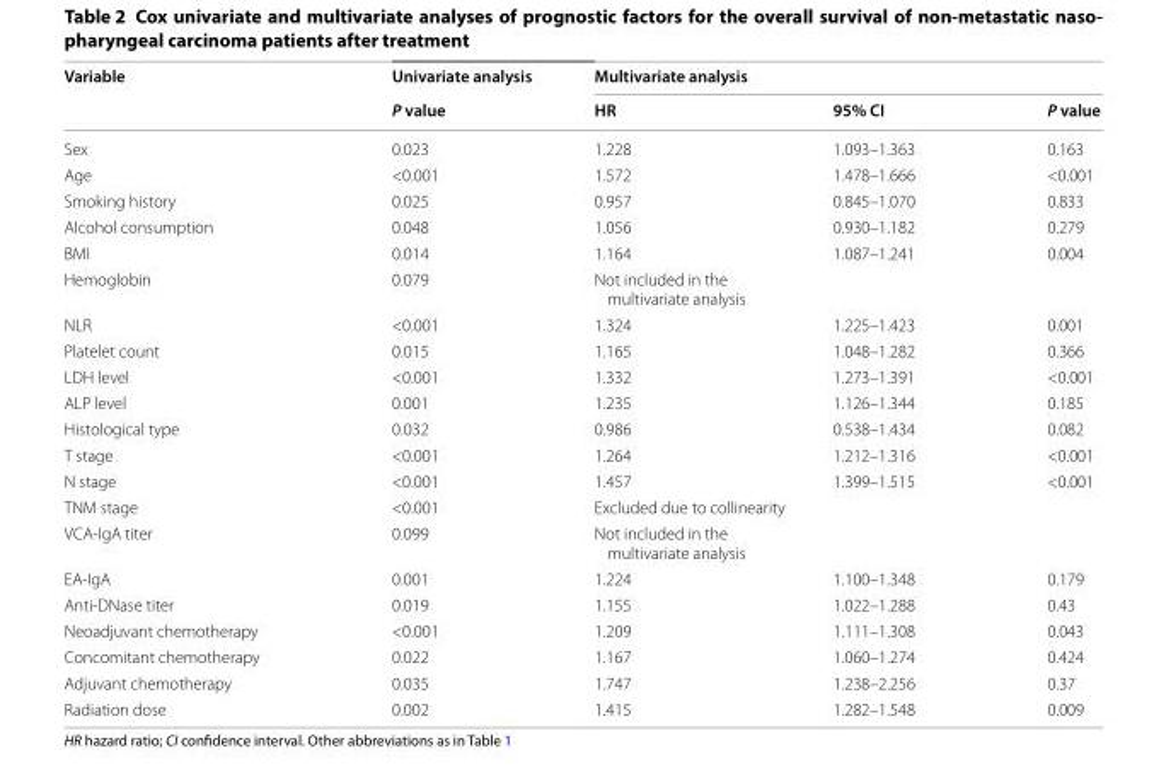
<table><thead><tr><td rowspan="2">Variable</td><td rowspan="2">Univariate analysis P value</td><td colspan="3">Multivariate analysis</td></tr><tr><td>HR</td><td>95% CI</td><td>P value</td></tr></thead><tbody><tr><td>Sex</td><td>0.023</td><td>1.228</td><td>1.093–1.363</td><td>0.163</td></tr><tr><td>Age</td><td>&lt;0.001</td><td>1.572</td><td>1.478–1.666</td><td>&lt;0.001</td></tr><tr><td>Smoking history</td><td>0.025</td><td>0.957</td><td>0.845–1.070</td><td>0.833</td></tr><tr><td>Alcohol consumption</td><td>0.048</td><td>1.056</td><td>0.930–1.182</td><td>0.279</td></tr><tr><td>BMI</td><td>0.014</td><td>1.164</td><td>1.087–1.241</td><td>0.004</td></tr><tr><td>Hemoglobin</td><td>0.079</td><td colspan="3">Not included in the multivariate analysis</td></tr><tr><td>NLR</td><td>&lt;0.001</td><td>1.324</td><td>1.225–1.423</td><td>0.001</td></tr><tr><td>Platelet count</td><td>0.015</td><td>1.165</td><td>1.048–1.282</td><td>0.366</td></tr><tr><td>LDH level</td><td>&lt;0.001</td><td>1.332</td><td>1.273–1.391</td><td>&lt;0.001</td></tr><tr><td>ALP level</td><td>0.001</td><td>1.235</td><td>1.126–1.344</td><td>0.185</td></tr><tr><td>Histological type</td><td>0.032</td><td>0.986</td><td>0.538–1.434</td><td>0.082</td></tr><tr><td>T stage</td><td>&lt;0.001</td><td>1.264</td><td>1.212–1.316</td><td>&lt;0.001</td></tr><tr><td>N stage</td><td>&lt;0.001</td><td>1.457</td><td>1.399–1.515</td><td>&lt;0.001</td></tr><tr><td>TNM stage</td><td>&lt;0.001</td><td colspan="3">Excluded due to collinearity</td></tr><tr><td>VCA-IgA titer</td><td>0.099</td><td colspan="3">Not included in the multivariate analysis</td></tr><tr><td>EA-IgA</td><td>0.001</td><td>1.224</td><td>1.100–1.348</td><td>0.179</td></tr><tr><td>Anti-DNase titer</td><td>0.019</td><td>1.155</td><td>1.022–1.288</td><td>0.43</td></tr><tr><td>Neoadjuvant chemotherapy</td><td>&lt;0.001</td><td>1.209</td><td>1.111–1.308</td><td>0.043</td></tr><tr><td>Concomitant chemotherapy</td><td>0.022</td><td>1.167</td><td>1.060–1.274</td><td>0.424</td></tr><tr><td>Adjuvant chemotherapy</td><td>0.035</td><td>1.747</td><td>1.238–2.256</td><td>0.37</td></tr><tr><td>Radiation dose</td><td>0.002</td><td>1.415</td><td>1.282–1.548</td><td>0.009</td></tr></tbody></table>